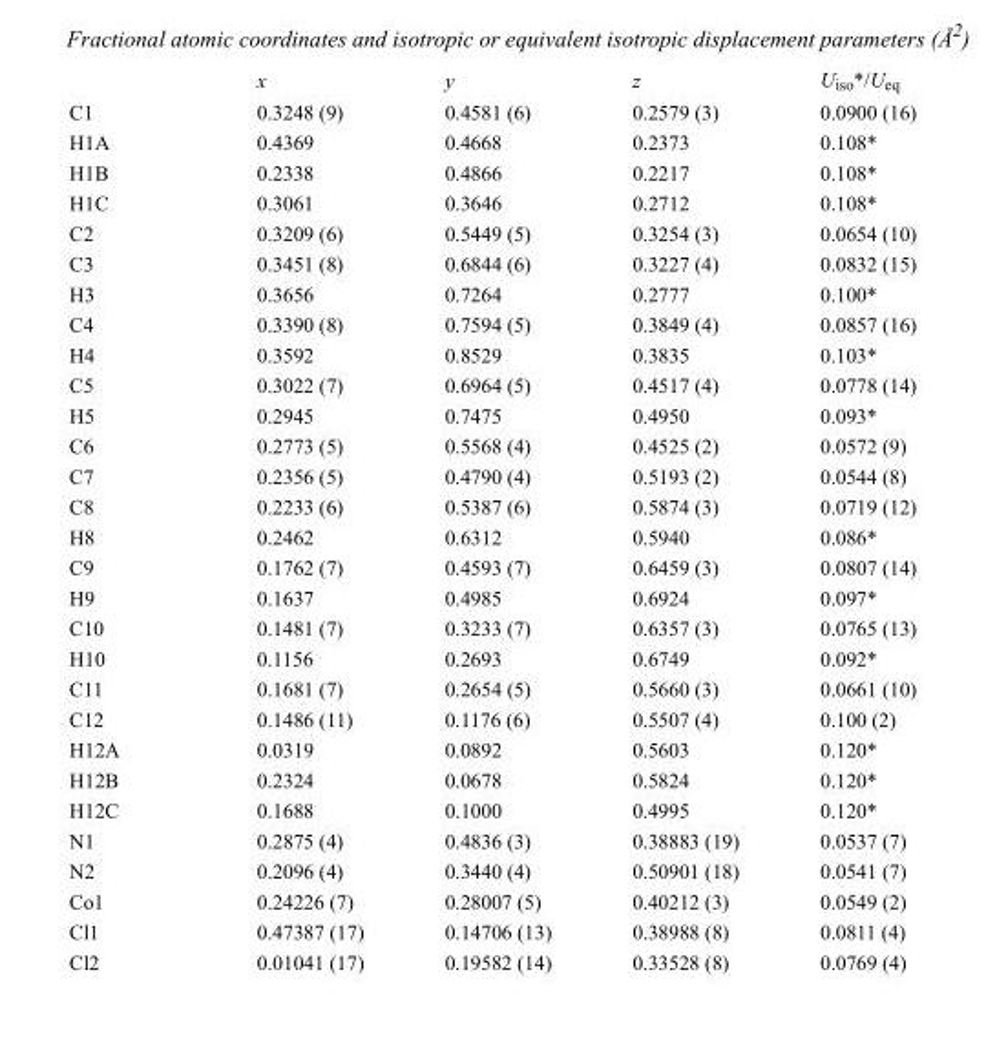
<table><thead><tr><td></td><td>x</td><td>y</td><td>z</td><td>U<sub>iso</sub>*/U<sub>eq</sub></td></tr></thead><tbody><tr><td>C1</td><td>0.3248 (9)</td><td>0.4581 (6)</td><td>0.2579 (3)</td><td>0.0900 (16)</td></tr><tr><td>H1A</td><td>0.4369</td><td>0.4668</td><td>0.2373</td><td>0.108*</td></tr><tr><td>H1B</td><td>0.2338</td><td>0.4866</td><td>0.2217</td><td>0.108*</td></tr><tr><td>H1C</td><td>0.3061</td><td>0.3646</td><td>0.2712</td><td>0.108*</td></tr><tr><td>C2</td><td>0.3209 (6)</td><td>0.5449 (5)</td><td>0.3254 (3)</td><td>0.0654 (10)</td></tr><tr><td>C3</td><td>0.3451 (8)</td><td>0.6844 (6)</td><td>0.3227 (4)</td><td>0.0832 (15)</td></tr><tr><td>H3</td><td>0.3656</td><td>0.7264</td><td>0.2777</td><td>0.100*</td></tr><tr><td>C4</td><td>0.3390 (8)</td><td>0.7594 (5)</td><td>0.3849 (4)</td><td>0.0857 (16)</td></tr><tr><td>H4</td><td>0.3592</td><td>0.8529</td><td>0.3835</td><td>0.103*</td></tr><tr><td>C5</td><td>0.3022 (7)</td><td>0.6964 (5)</td><td>0.4517 (4)</td><td>0.0778 (14)</td></tr><tr><td>H5</td><td>0.2945</td><td>0.7475</td><td>0.4950</td><td>0.093*</td></tr><tr><td>C6</td><td>0.2773 (5)</td><td>0.5568 (4)</td><td>0.4525 (2)</td><td>0.0572 (9)</td></tr><tr><td>C7</td><td>0.2356 (5)</td><td>0.4790 (4)</td><td>0.5193 (2)</td><td>0.0544 (8)</td></tr><tr><td>C8</td><td>0.2233 (6)</td><td>0.5387 (6)</td><td>0.5874 (3)</td><td>0.0719 (12)</td></tr><tr><td>H8</td><td>0.2462</td><td>0.6312</td><td>0.5940</td><td>0.086*</td></tr><tr><td>C9</td><td>0.1762 (7)</td><td>0.4593 (7)</td><td>0.6459 (3)</td><td>0.0807 (14)</td></tr><tr><td>H9</td><td>0.1637</td><td>0.4985</td><td>0.6924</td><td>0.097*</td></tr><tr><td>C10</td><td>0.1481 (7)</td><td>0.3233 (7)</td><td>0.6357 (3)</td><td>0.0765 (13)</td></tr><tr><td>H10</td><td>0.1156</td><td>0.2693</td><td>0.6749</td><td>0.092*</td></tr><tr><td>C11</td><td>0.1681 (7)</td><td>0.2654 (5)</td><td>0.5660 (3)</td><td>0.0661 (10)</td></tr><tr><td>C12</td><td>0.1486 (11)</td><td>0.1176 (6)</td><td>0.5507 (4)</td><td>0.100 (2)</td></tr><tr><td>H12A</td><td>0.0319</td><td>0.0892</td><td>0.5603</td><td>0.120*</td></tr><tr><td>H12B</td><td>0.2324</td><td>0.0678</td><td>0.5824</td><td>0.120*</td></tr><tr><td>H12C</td><td>0.1688</td><td>0.1000</td><td>0.4995</td><td>0.120*</td></tr><tr><td>N1</td><td>0.2875 (4)</td><td>0.4836 (3)</td><td>0.38883 (19)</td><td>0.0537 (7)</td></tr><tr><td>N2</td><td>0.2096 (4)</td><td>0.3440 (4)</td><td>0.50901 (18)</td><td>0.0541 (7)</td></tr><tr><td>Co1</td><td>0.24226 (7)</td><td>0.28007 (5)</td><td>0.40212 (3)</td><td>0.0549 (2)</td></tr><tr><td>Cl1</td><td>0.47387 (17)</td><td>0.14706 (13)</td><td>0.38988 (8)</td><td>0.0811 (4)</td></tr><tr><td>Cl2</td><td>0.01041 (17)</td><td>0.19582 (14)</td><td>0.33528 (8)</td><td>0.0769 (4)</td></tr></tbody></table>